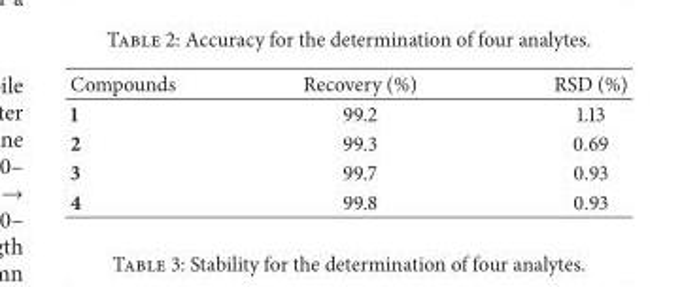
<table><thead><tr><td>Compounds</td><td>Recovery (%)</td><td>RSD (%)</td></tr></thead><tbody><tr><td>1</td><td>99.2</td><td>1.13</td></tr><tr><td>2</td><td>99.3</td><td>0.69</td></tr><tr><td>3</td><td>99.7</td><td>0.93</td></tr><tr><td>4</td><td>99.8</td><td>0.93</td></tr></tbody></table>